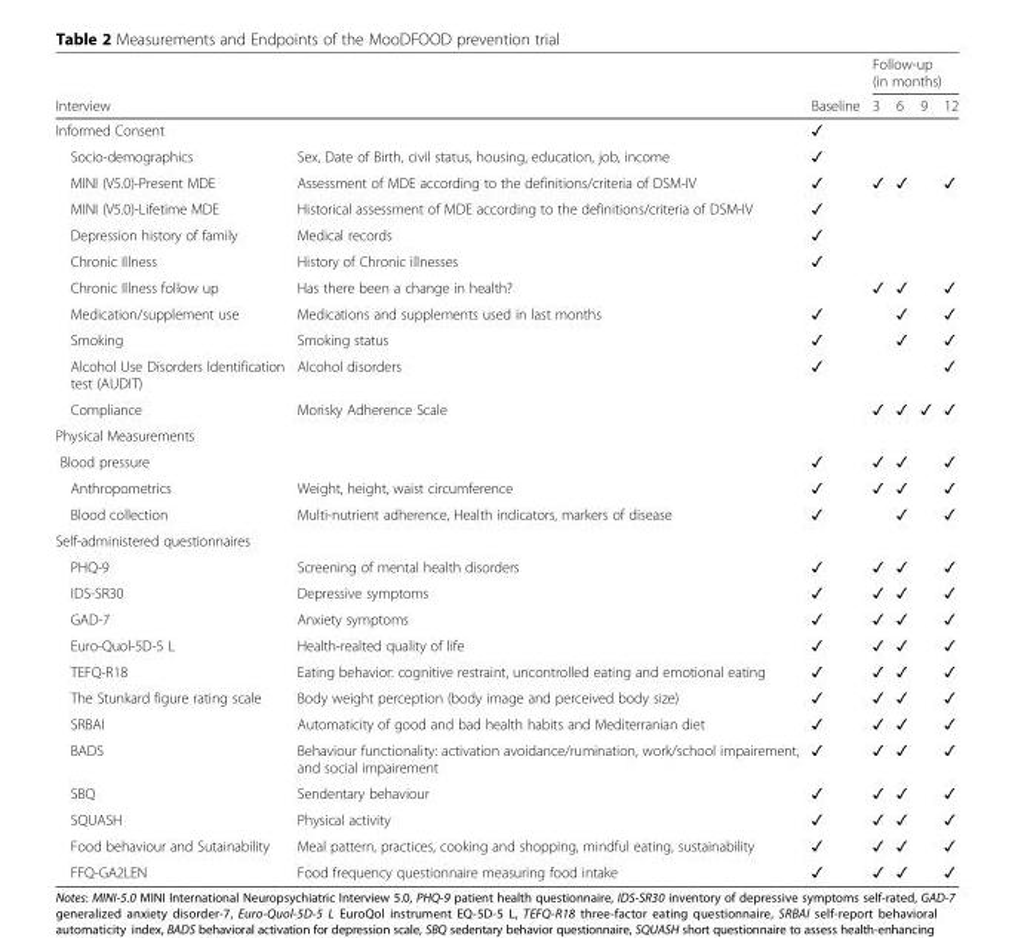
<table><thead><tr><td></td><td></td><td rowspan="2">Baseline</td><td colspan="4">Follow-up (in months)</td></tr><tr><td colspan="2">Interview</td><td>3</td><td>6</td><td>9</td><td>12</td></tr></thead><tbody><tr><td>Informed Consent</td><td></td><td>✓</td><td></td><td></td><td></td><td></td></tr><tr><td>Socio-demographics</td><td>Sex, Date of Birth, civil status, housing, education, job, income</td><td>✓</td><td></td><td></td><td></td><td></td></tr><tr><td>MINI (V5.0)-Present MDE</td><td>Assessment of MDE according to the definitions/criteria of DSM-IV</td><td>✓</td><td>✓</td><td>✓</td><td></td><td>✓</td></tr><tr><td>MINI (V5.0)-Lifetime MDE</td><td>Historical assessment of MDE according to the definitions/criteria of DSM-IV</td><td>✓</td><td></td><td></td><td></td><td></td></tr><tr><td>Depression history of family</td><td>Medical records</td><td>✓</td><td></td><td></td><td></td><td></td></tr><tr><td>Chronic Illness</td><td>History of Chronic illnesses</td><td>✓</td><td></td><td></td><td></td><td></td></tr><tr><td>Chronic Illness follow up</td><td>Has there been a change in health?</td><td></td><td>✓</td><td>✓</td><td></td><td>✓</td></tr><tr><td>Medication/supplement use</td><td>Medications and supplements used in last months</td><td>✓</td><td></td><td>✓</td><td></td><td>✓</td></tr><tr><td>Smoking</td><td>Smoking status</td><td>✓</td><td></td><td>✓</td><td></td><td>✓</td></tr><tr><td>Alcohol Use Disorders Identification test (AUDIT)</td><td>Alcohol disorders</td><td>✓</td><td></td><td></td><td></td><td>✓</td></tr><tr><td>Compliance</td><td>Morisky Adherence Scale</td><td></td><td>✓</td><td>✓</td><td>✓</td><td>✓</td></tr><tr><td colspan="7">Physical Measurements</td></tr><tr><td>Blood pressure</td><td></td><td>✓</td><td>✓</td><td>✓</td><td></td><td>✓</td></tr><tr><td>Anthropometrics</td><td>Weight, height, waist circumference</td><td>✓</td><td>✓</td><td>✓</td><td></td><td>✓</td></tr><tr><td>Blood collection</td><td>Multi-nutrient adherence, Health indicators, markers of disease</td><td>✓</td><td></td><td>✓</td><td></td><td>✓</td></tr><tr><td colspan="7">Self-administered questionnaires</td></tr><tr><td>PHQ-9</td><td>Screening of mental health disorders</td><td>✓</td><td>✓</td><td>✓</td><td></td><td>✓</td></tr><tr><td>IDS-SR30</td><td>Depressive symptoms</td><td>✓</td><td>✓</td><td>✓</td><td></td><td>✓</td></tr><tr><td>GAD-7</td><td>Anxiety symptoms</td><td>✓</td><td>✓</td><td>✓</td><td></td><td>✓</td></tr><tr><td>Euro-Quol-5D-5 L</td><td>Health-realted quality of life</td><td>✓</td><td>✓</td><td>✓</td><td></td><td>✓</td></tr><tr><td>TEFQ-R18</td><td>Eating behavior: cognitive restraint, uncontrolled eating and emotional eating</td><td>✓</td><td>✓</td><td>✓</td><td></td><td>✓</td></tr><tr><td>The Stunkard figure rating scale</td><td>Body weight perception (body image and perceived body size)</td><td>✓</td><td>✓</td><td>✓</td><td></td><td>✓</td></tr><tr><td>SRBAI</td><td>Automaticity of good and bad health habits and Mediterranian diet</td><td>✓</td><td>✓</td><td>✓</td><td></td><td>✓</td></tr><tr><td>BADS</td><td>Behaviour functionality: activation avoidance/rumination, work/school impairement, and social impairement</td><td>✓</td><td>✓</td><td>✓</td><td></td><td>✓</td></tr><tr><td>SBQ</td><td>Sendentary behaviour</td><td>✓</td><td>✓</td><td>✓</td><td></td><td>✓</td></tr><tr><td>SQUASH</td><td>Physical activity</td><td>✓</td><td>✓</td><td>✓</td><td></td><td>✓</td></tr><tr><td>Food behaviour and Sutainability</td><td>Meal pattern, practices, cooking and shopping, mindful eating, sustainability</td><td>✓</td><td>✓</td><td>✓</td><td></td><td>✓</td></tr><tr><td>FFQ-GA2LEN</td><td>Food frequency questionnaire measuring food intake</td><td>✓</td><td>✓</td><td>✓</td><td></td><td>✓</td></tr></tbody></table>